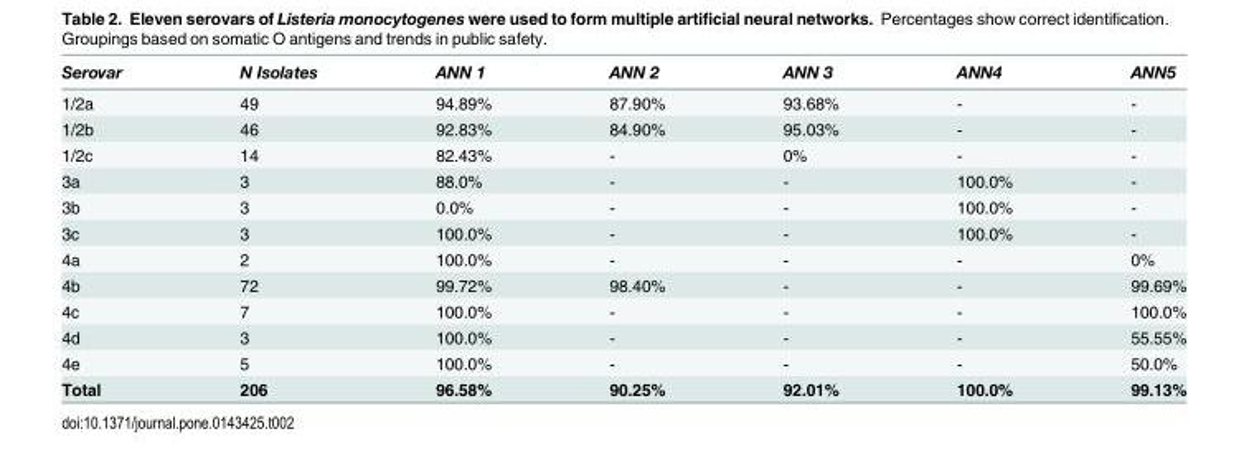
<table><thead><tr><td>Serovar</td><td>N Isolates</td><td>ANN 1</td><td>ANN 2</td><td>ANN 3</td><td>ANN4</td><td>ANN5</td></tr></thead><tbody><tr><td>1/2a</td><td>49</td><td>94.89%</td><td>87.90%</td><td>93.68%</td><td>-</td><td>-</td></tr><tr><td>1/2b</td><td>46</td><td>92.83%</td><td>84.90%</td><td>95.03%</td><td>-</td><td>-</td></tr><tr><td>1/2c</td><td>14</td><td>82.43%</td><td>-</td><td>0%</td><td>-</td><td>-</td></tr><tr><td>3a</td><td>3</td><td>88.0%</td><td>-</td><td>-</td><td>100.0%</td><td>-</td></tr><tr><td>3b</td><td>3</td><td>0.0%</td><td>-</td><td>-</td><td>100.0%</td><td>-</td></tr><tr><td>3c</td><td>3</td><td>100.0%</td><td>-</td><td>-</td><td>100.0%</td><td>-</td></tr><tr><td>4a</td><td>2</td><td>100.0%</td><td>-</td><td>-</td><td>-</td><td>0%</td></tr><tr><td>4b</td><td>72</td><td>99.72%</td><td>98.40%</td><td>-</td><td>-</td><td>99.69%</td></tr><tr><td>4c</td><td>7</td><td>100.0%</td><td>-</td><td>-</td><td>-</td><td>100.0%</td></tr><tr><td>4d</td><td>3</td><td>100.0%</td><td>-</td><td>-</td><td>-</td><td>55.55%</td></tr><tr><td>4e</td><td>5</td><td>100.0%</td><td>-</td><td>-</td><td>-</td><td>50.0%</td></tr><tr><td>Total</td><td>206</td><td>96.58%</td><td>90.25%</td><td>92.01%</td><td>100.0%</td><td>99.13%</td></tr></tbody></table>